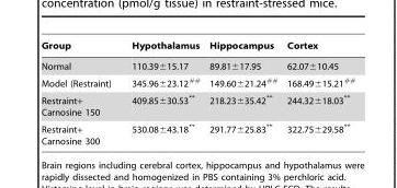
<table><thead><tr><td>Group</td><td>Hypothalamus</td><td>Hippocampus</td><td>Cortex</td></tr></thead><tbody><tr><td>Normal</td><td>110.39±15.17</td><td>89.81±17.95</td><td>62.07±10.45</td></tr><tr><td>Model (Restraint)</td><td>345.96±23.12##</td><td>149.60±21.24##</td><td>168.49±15.21##</td></tr><tr><td>Restraint+ Carnosine 150</td><td>409.85±30.53**</td><td>218.23±35.42**</td><td>244.32±18.03**</td></tr><tr><td>Restraint+ Carnosine 300</td><td>530.08±43.18**</td><td>291.77±25.83**</td><td>322.75±29.58**</td></tr></tbody></table>